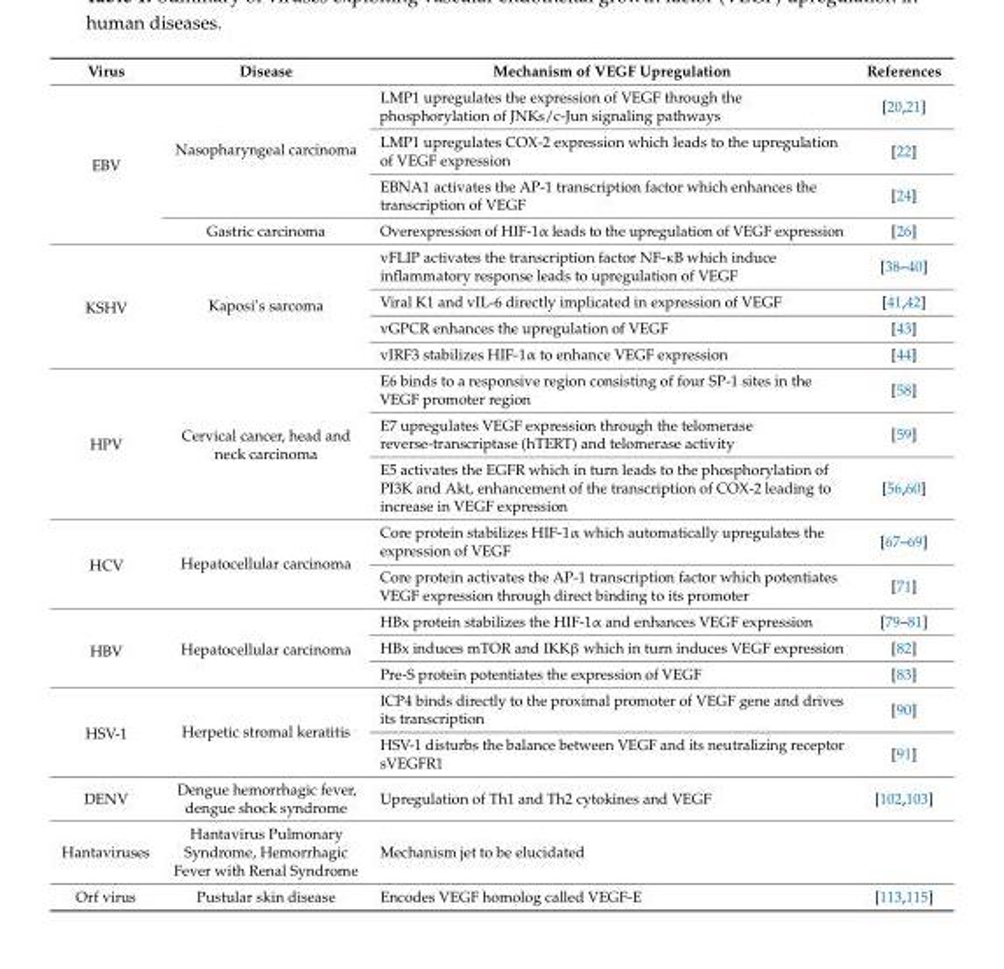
<table><thead><tr><td>Virus</td><td>Disease</td><td>Mechanism of VEGF Upregulation</td><td>References</td></tr></thead><tbody><tr><td rowspan="4">EBV</td><td rowspan="3">Nasopharyngeal carcinoma</td><td>LMP1 upregulates the expression of VEGF through the phosphorylation of JNKs/c-Jun signaling pathways</td><td>[20,21]</td></tr><tr><td>LMP1 upregulates COX-2 expression which leads to the upregulation of VEGF expression</td><td>[22]</td></tr><tr><td>EBNA1 activates the AP-1 transcription factor which enhances the transcription of VEGF</td><td>[24]</td></tr><tr><td>Gastric carcinoma</td><td>Overexpression of HIF-1α leads to the upregulation of VEGF expression</td><td>[26]</td></tr><tr><td rowspan="4">KSHV</td><td rowspan="4">Kaposi’s sarcoma</td><td>vFLIP activates the transcription factor NF-κB which induce inflammatory response leads to upregulation of VEGF</td><td>[38–40]</td></tr><tr><td>Viral K1 and vIL-6 directly implicated in expression of VEGF</td><td>[41,42]</td></tr><tr><td>vGPCR enhances the upregulation of VEGF</td><td>[43]</td></tr><tr><td>vIRF3 stabilizes HIF-1α to enhance VEGF expression</td><td>[44]</td></tr><tr><td rowspan="3">HPV</td><td rowspan="3">Cervical cancer, head and neck carcinoma</td><td>E6 binds to a responsive region consisting of four SP-1 sites in the VEGF promoter region</td><td>[58]</td></tr><tr><td>E7 upregulates VEGF expression through the telomerase reverse-transcriptase (hTERT) and telomerase activity</td><td>[59]</td></tr><tr><td>E5 activates the EGFR which in turn leads to the phosphorylation of PI3K and Akt, enhancement of the transcription of COX-2 leading to increase in VEGF expression</td><td>[56,60]</td></tr><tr><td rowspan="2">HCV</td><td rowspan="2">Hepatocellular carcinoma</td><td>Core protein stabilizes HIF-1α which automatically upregulates the expression of VEGF</td><td>[67–69]</td></tr><tr><td>Core protein activates the AP-1 transcription factor which potentiates VEGF expression through direct binding to its promoter</td><td>[71]</td></tr><tr><td rowspan="3">HBV</td><td rowspan="3">Hepatocellular carcinoma</td><td>HBx protein stabilizes the HIF-1α and enhances VEGF expression</td><td>[79–81]</td></tr><tr><td>HBx induces mTOR and IKKβ which in turn induces VEGF expression</td><td>[82]</td></tr><tr><td>Pre-S protein potentiates the expression of VEGF</td><td>[83]</td></tr><tr><td rowspan="2">HSV-1</td><td rowspan="2">Herpetic stromal keratitis</td><td>ICP4 binds directly to the proximal promoter of VEGF gene and drives its transcription</td><td>[90]</td></tr><tr><td>HSV-1 disturbs the balance between VEGF and its neutralizing receptor sVEGFR1</td><td>[91]</td></tr><tr><td>DENV</td><td>Dengue hemorrhagic fever, dengue shock syndrome</td><td>Upregulation of Th1 and Th2 cytokines and VEGF</td><td>[102,103]</td></tr><tr><td>Hantaviruses</td><td>Hantavirus Pulmonary Syndrome, Hemorrhagic Fever with Renal Syndrome</td><td>Mechanism jet to be elucidated</td><td></td></tr><tr><td>Orf virus</td><td>Pustular skin disease</td><td>Encodes VEGF homolog called VEGF-E</td><td>[113,115]</td></tr></tbody></table>